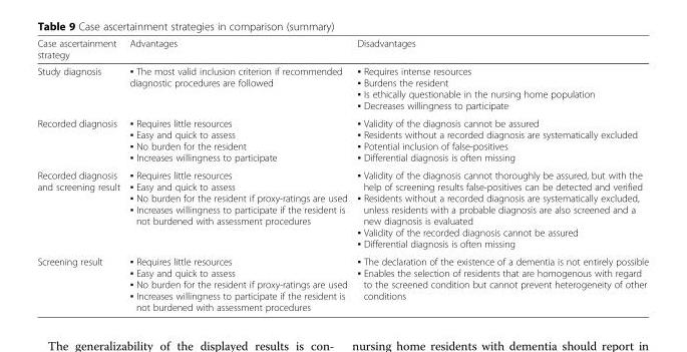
<table><thead><tr><td>Case ascertainment strategy</td><td>Advantages</td><td>Disadvantages</td></tr></thead><tbody><tr><td>Study diagnosis</td><td>▪ The most valid inclusion criterion if recommended diagnostic procedures are followed</td><td>▪ Requires intense resources ▪ Burdens the resident ▪ Is ethically questionable in the nursing home population ▪ Decreases willingness to participate</td></tr><tr><td>Recorded diagnosis</td><td>▪ Requires little resources ▪ Easy and quick to assess ▪ No burden for the resident ▪ Increases willingness to participate</td><td>▪ Validity of the diagnosis cannot be assured ▪ Residents without a recorded diagnosis are systematically excluded ▪ Potential inclusion of false-positives ▪ Differential diagnosis is often missing</td></tr><tr><td>Recorded diagnosis and screening result</td><td>▪ Requires little resources ▪ Easy and quick to assess ▪ No burden for the resident if proxy-ratings are used ▪ Increases willingness to participate if the resident is not burdened with assessment procedures</td><td>▪ Validity of the diagnosis cannot thoroughly be assured, but with the help of screening results false-positives can be detected and verified ▪ Residents without a recorded diagnosis are systematically excluded, unless residents with a probable diagnosis are also screened and a new diagnosis is evaluated ▪ Validity of the recorded diagnosis cannot be assured ▪ Differential diagnosis is often missing</td></tr><tr><td>Screening result</td><td>▪ Requires little resources ▪ Easy and quick to assess ▪ No burden for the resident if proxy-ratings are used ▪ Increases willingness to participate if the resident is not burdened with assessment procedures</td><td>▪ The declaration of the existence of a dementia is not entirely possible ▪ Enables the selection of residents that are homogenous with regard to the screened condition but cannot prevent heterogeneity of other conditions</td></tr></tbody></table>